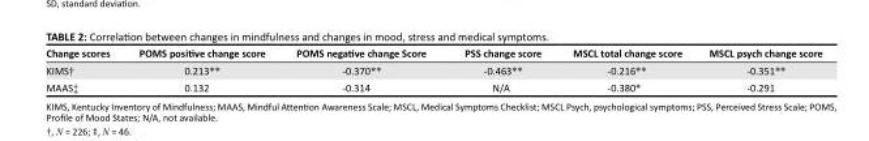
<table><thead><tr><td>Change scores</td><td>POMS positive change score</td><td>POMS negative change Score</td><td>PSS change score</td><td>MSCL total change score</td><td>MSCL psych change score</td></tr></thead><tbody><tr><td>KIMS†</td><td>0.213**</td><td>-0.370**</td><td>-0.463**</td><td>-0.216**</td><td>-0.351**</td></tr><tr><td>MAAS‡</td><td>0.132</td><td>-0.314</td><td>N/A</td><td>-0.380*</td><td>-0.291</td></tr></tbody></table>